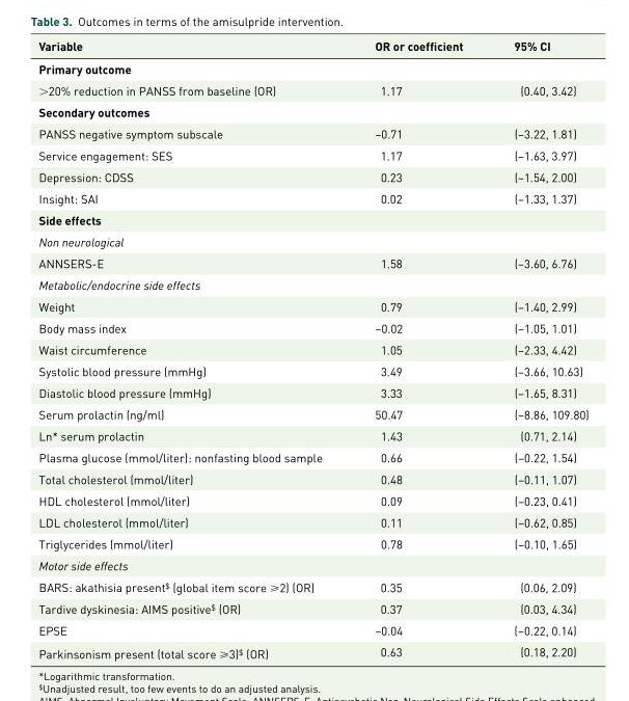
<table><thead><tr><td>Variable</td><td>OR or coefficient</td><td>95% CI</td></tr></thead><tbody><tr><td colspan="3">Primary outcome</td></tr><tr><td>&gt;20% reduction in PANSS from baseline (OR)</td><td>1.17</td><td>(0.40, 3.42)</td></tr><tr><td colspan="3">Secondary outcomes</td></tr><tr><td>PANSS negative symptom subscale</td><td>−0.71</td><td>(−3.22, 1.81)</td></tr><tr><td>Service engagement: SES</td><td>1.17</td><td>(−1.63, 3.97)</td></tr><tr><td>Depression: CDSS</td><td>0.23</td><td>(−1.54, 2.00)</td></tr><tr><td>Insight: SAI</td><td>0.02</td><td>(−1.33, 1.37)</td></tr><tr><td colspan="3">Side effects</td></tr><tr><td colspan="3">Non neurological</td></tr><tr><td>ANNSERS-E</td><td>1.58</td><td>(−3.60, 6.76)</td></tr><tr><td colspan="3">Metabolic/endocrine side effects</td></tr><tr><td>Weight</td><td>0.79</td><td>(−1.40, 2.99)</td></tr><tr><td>Body mass index</td><td>−0.02</td><td>(−1.05, 1.01)</td></tr><tr><td>Waist circumference</td><td>1.05</td><td>(−2.33, 4.42)</td></tr><tr><td>Systolic blood pressure (mmHg)</td><td>3.49</td><td>(−3.66, 10.63)</td></tr><tr><td>Diastolic blood pressure (mmHg)</td><td>3.33</td><td>(−1.65, 8.31)</td></tr><tr><td>Serum prolactin (ng/ml)</td><td>50.47</td><td>(−8.86, 109.80)</td></tr><tr><td>Ln* serum prolactin</td><td>1.43</td><td>(0.71, 2.14)</td></tr><tr><td>Plasma glucose (mmol/liter): nonfasting blood sample</td><td>0.66</td><td>(−0.22, 1.54)</td></tr><tr><td>Total cholesterol (mmol/liter)</td><td>0.48</td><td>(−0.11, 1.07)</td></tr><tr><td>HDL cholesterol (mmol/liter)</td><td>0.09</td><td>(−0.23, 0.41)</td></tr><tr><td>LDL cholesterol (mmol/liter)</td><td>0.11</td><td>(−0.62, 0.85)</td></tr><tr><td>Triglycerides (mmol/liter)</td><td>0.78</td><td>(−0.10, 1.65)</td></tr><tr><td colspan="3">Motor side effects</td></tr><tr><td>BARS: akathisia present<sup>$</sup> (global item score ⩾2) (OR)</td><td>0.35</td><td>(0.06, 2.09)</td></tr><tr><td>Tardive dyskinesia: AIMS positive<sup>$</sup> (OR)</td><td>0.37</td><td>(0.03, 4.34)</td></tr><tr><td>EPSE</td><td>−0.04</td><td>(−0.22, 0.14)</td></tr><tr><td>Parkinsonism present (total score ⩾3)<sup>$</sup> (OR)</td><td>0.63</td><td>(0.18, 2.20)</td></tr></tbody></table>